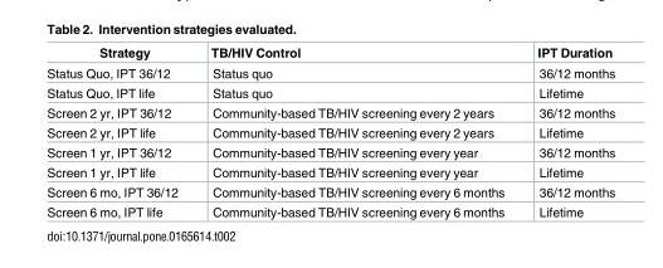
<table><thead><tr><td>Strategy</td><td>TB/HIV Control</td><td>IPT Duration</td></tr></thead><tbody><tr><td>Status Quo, IPT 36/12</td><td>Status quo</td><td>36/12 months</td></tr><tr><td>Status Quo, IPT life</td><td>Status quo</td><td>Lifetime</td></tr><tr><td>Screen 2 yr, IPT 36/12</td><td>Community-based TB/HIV screening every 2 years</td><td>36/12 months</td></tr><tr><td>Screen 2 yr, IPT life</td><td>Community-based TB/HIV screening every 2 years</td><td>Lifetime</td></tr><tr><td>Screen 1 yr, IPT 36/12</td><td>Community-based TB/HIV screening every year</td><td>36/12 months</td></tr><tr><td>Screen 1 yr, IPT life</td><td>Community-based TB/HIV screening every year</td><td>Lifetime</td></tr><tr><td>Screen 6 mo, IPT 36/12</td><td>Community-based TB/HIV screening every 6 months</td><td>36/12 months</td></tr><tr><td>Screen 6 mo, IPT life</td><td>Community-based TB/HIV screening every 6 months</td><td>Lifetime</td></tr></tbody></table>